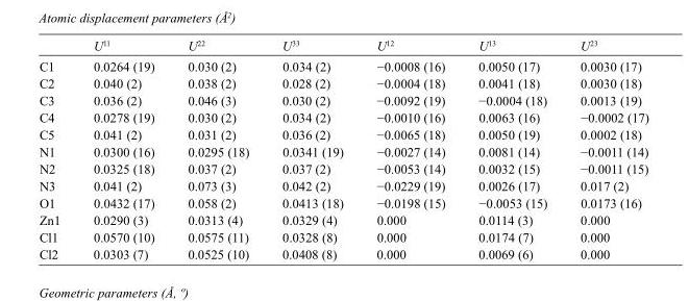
<table><thead><tr><td></td><td>U<sup>11</sup></td><td>U<sup>22</sup></td><td>U<sup>33</sup></td><td>U<sup>12</sup></td><td>U<sup>13</sup></td><td>U<sup>23</sup></td></tr></thead><tbody><tr><td>C1</td><td>0.0264 (19)</td><td>0.030 (2)</td><td>0.034 (2)</td><td>−0.0008 (16)</td><td>0.0050 (17)</td><td>0.0030 (17)</td></tr><tr><td>C2</td><td>0.040 (2)</td><td>0.038 (2)</td><td>0.028 (2)</td><td>−0.0004 (18)</td><td>0.0041 (18)</td><td>0.0030 (18)</td></tr><tr><td>C3</td><td>0.036 (2)</td><td>0.046 (3)</td><td>0.030 (2)</td><td>−0.0092 (19)</td><td>−0.0004 (18)</td><td>0.0013 (19)</td></tr><tr><td>C4</td><td>0.0278 (19)</td><td>0.030 (2)</td><td>0.034 (2)</td><td>−0.0010 (16)</td><td>0.0063 (16)</td><td>−0.0002 (17)</td></tr><tr><td>C5</td><td>0.041 (2)</td><td>0.031 (2)</td><td>0.036 (2)</td><td>−0.0065 (18)</td><td>0.0050 (19)</td><td>0.0002 (18)</td></tr><tr><td>N1</td><td>0.0300 (16)</td><td>0.0295 (18)</td><td>0.0341 (19)</td><td>−0.0027 (14)</td><td>0.0081 (14)</td><td>−0.0011 (14)</td></tr><tr><td>N2</td><td>0.0325 (18)</td><td>0.037 (2)</td><td>0.037 (2)</td><td>−0.0053 (14)</td><td>0.0032 (15)</td><td>−0.0011 (15)</td></tr><tr><td>N3</td><td>0.041 (2)</td><td>0.073 (3)</td><td>0.042 (2)</td><td>−0.0229 (19)</td><td>0.0026 (17)</td><td>0.017 (2)</td></tr><tr><td>O1</td><td>0.0432 (17)</td><td>0.058 (2)</td><td>0.0413 (18)</td><td>−0.0198 (15)</td><td>−0.0053 (15)</td><td>0.0173 (16)</td></tr><tr><td>Zn1</td><td>0.0290 (3)</td><td>0.0313 (4)</td><td>0.0329 (4)</td><td>0.000</td><td>0.0114 (3)</td><td>0.000</td></tr><tr><td>Cl1</td><td>0.0570 (10)</td><td>0.0575 (11)</td><td>0.0328 (8)</td><td>0.000</td><td>0.0174 (7)</td><td>0.000</td></tr><tr><td>Cl2</td><td>0.0303 (7)</td><td>0.0525 (10)</td><td>0.0408 (8)</td><td>0.000</td><td>0.0069 (6)</td><td>0.000</td></tr></tbody></table>